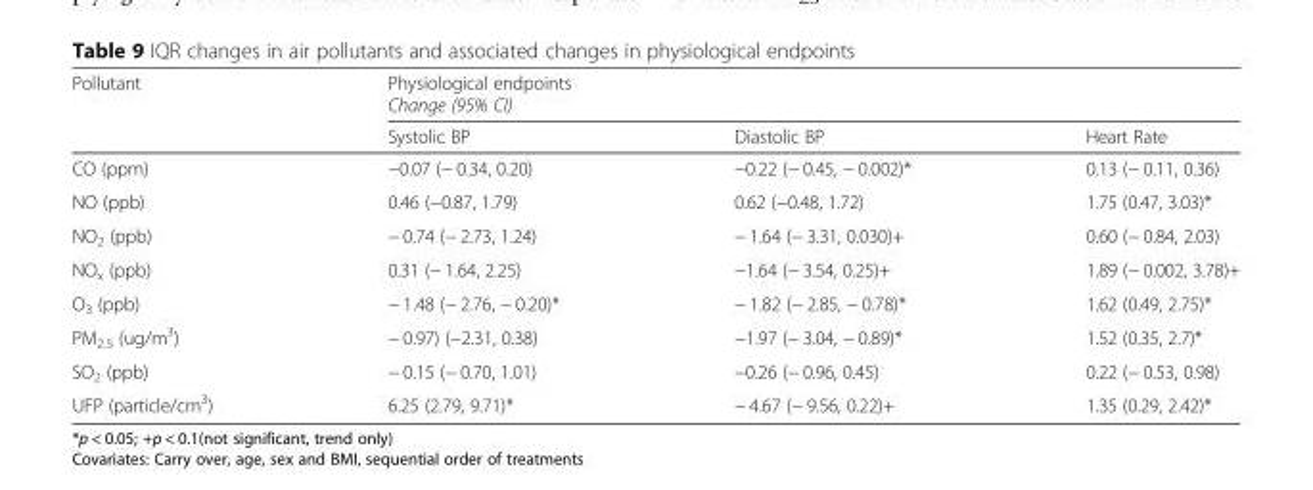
<table><thead><tr><td rowspan="2">Pollutant</td><td colspan="3">Physiological endpoints Change (95% CI)</td></tr><tr><td>Systolic BP</td><td>Diastolic BP</td><td>Heart Rate</td></tr></thead><tbody><tr><td>CO (ppm)</td><td>−0.07 (− 0.34, 0.20)</td><td>−0.22 (− 0.45, − 0.002)*</td><td>0.13 (− 0.11, 0.36)</td></tr><tr><td>NO (ppb)</td><td>0.46 (−0.87, 1.79)</td><td>0.62 (−0.48, 1.72)</td><td>1.75 (0.47, 3.03)*</td></tr><tr><td>NO<sub>2</sub> (ppb)</td><td>− 0.74 (− 2.73, 1.24)</td><td>− 1.64 (− 3.31, 0.030)+</td><td>0.60 (− 0.84, 2.03)</td></tr><tr><td>NO<sub>x</sub> (ppb)</td><td>0.31 (− 1.64, 2.25)</td><td>−1.64 (− 3.54, 0.25)+</td><td>1.89 (− 0.002, 3.78)+</td></tr><tr><td>O<sub>3</sub> (ppb)</td><td>− 1.48 (− 2.76, − 0.20)*</td><td>− 1.82 (− 2.85, − 0.78)*</td><td>1.62 (0.49, 2.75)*</td></tr><tr><td>PM<sub>2.5</sub> (ug/m<sup>3</sup>)</td><td>− 0.97) (−2.31, 0.38)</td><td>−1.97 (− 3.04, − 0.89)*</td><td>1.52 (0.35, 2.7)*</td></tr><tr><td>SO<sub>2</sub> (ppb)</td><td>− 0.15 (− 0.70, 1.01)</td><td>−0.26 (− 0.96, 0.45)</td><td>0.22 (− 0.53, 0.98)</td></tr><tr><td>UFP (particle/cm<sup>3</sup>)</td><td>6.25 (2.79, 9.71)*</td><td>− 4.67 (− 9.56, 0.22)+</td><td>1.35 (0.29, 2.42)*</td></tr></tbody></table>